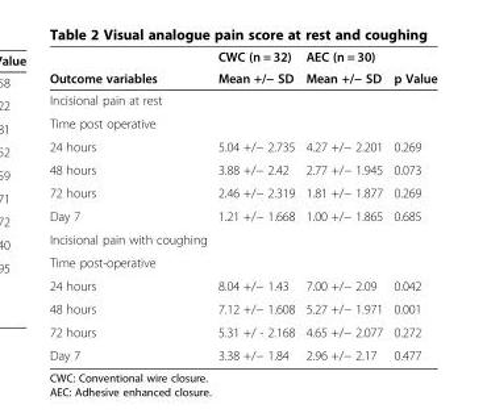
<table><thead><tr><td rowspan="2">Outcome variables</td><td rowspan="2">CWC (n = 32) Mean +/− SD</td><td rowspan="2">AEC (n = 30) Mean +/− SD</td><td rowspan="2">p Value</td></tr><tr></tr></thead><tbody><tr><td colspan="4">Incisional pain at rest</td></tr><tr><td colspan="4">Time post operative</td></tr><tr><td>24 hours</td><td>5.04 +/− 2.735</td><td>4.27 +/− 2.201</td><td>0.269</td></tr><tr><td>48 hours</td><td>3.88 +/− 2.42</td><td>2.77 +/− 1.945</td><td>0.073</td></tr><tr><td>72 hours</td><td>2.46 +/− 2.319</td><td>1.81 +/− 1.877</td><td>0.269</td></tr><tr><td>Day 7</td><td>1.21 +/− 1.668</td><td>1.00 +/− 1.865</td><td>0.685</td></tr><tr><td colspan="4">Incisional pain with coughing</td></tr><tr><td colspan="4">Time post-operative</td></tr><tr><td>24 hours</td><td>8.04 +/− 1.43</td><td>7.00 +/− 2.09</td><td>0.042</td></tr><tr><td>48 hours</td><td>7.12 +/− 1.608</td><td>5.27 +/− 1.971</td><td>0.001</td></tr><tr><td>72 hours</td><td>5.31 +/ - 2.168</td><td>4.65 +/− 2.077</td><td>0.272</td></tr><tr><td>Day 7</td><td>3.38 +/− 1.84</td><td>2.96 +/− 2.17</td><td>0.477</td></tr></tbody></table>